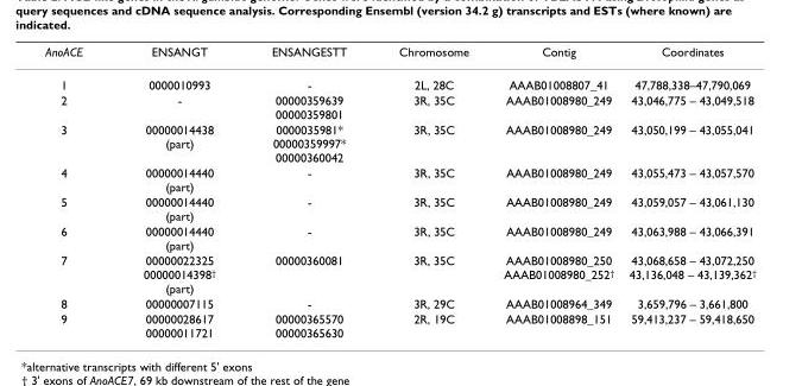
<table><thead><tr><td>AnoACE</td><td>ENSANGT</td><td>ENSANGESTT</td><td>Chromosome</td><td>Contig</td><td>Coordinates</td></tr></thead><tbody><tr><td>1</td><td>0000010993</td><td>-</td><td>2L, 28C</td><td>AAAB01008807_41</td><td>47,788,338–47,790,069</td></tr><tr><td>2</td><td>-</td><td>00000359639 00000359801</td><td>3R, 35C</td><td>AAAB01008980_249</td><td>43,046,775 – 43,049,518</td></tr><tr><td>3</td><td>00000014438 (part)</td><td>0000035981* 00000359997* 00000360042</td><td>3R, 35C</td><td>AAAB01008980_249</td><td>43,050,199 – 43,055,041</td></tr><tr><td>4</td><td>00000014440 (part)</td><td>-</td><td>3R, 35C</td><td>AAAB01008980_249</td><td>43,055,473 – 43,057,570</td></tr><tr><td>5</td><td>00000014440 (part)</td><td>-</td><td>3R, 35C</td><td>AAAB01008980_249</td><td>43,059,057 – 43,061,130</td></tr><tr><td>6</td><td>00000014440 (part)</td><td>-</td><td>3R, 35C</td><td>AAAB01008980_249</td><td>43,063,988 – 43,066,391</td></tr><tr><td>7</td><td>00000022325 00000014398<sup>†</sup> (part)</td><td>00000360081</td><td>3R, 35C</td><td>AAAB01008980_250 AAAB01008980_252<sup>†</sup></td><td>43,068,658 – 43,072,250 43,136,048 – 43,139,362<sup>†</sup></td></tr><tr><td>8</td><td>00000007115</td><td>-</td><td>3R, 29C</td><td>AAAB01008964_349</td><td>3,659,796 – 3,661,800</td></tr><tr><td>9</td><td>00000028617 00000011721</td><td>00000365570 00000365630</td><td>2R, 19C</td><td>AAAB01008898_151</td><td>59,413,237 – 59,418,650</td></tr></tbody></table>